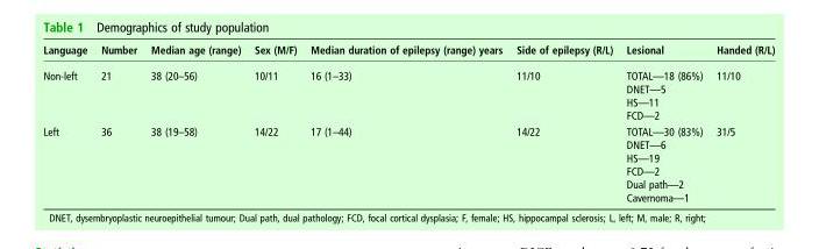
<table><thead><tr><td>Language</td><td>Number</td><td>Median age (range)</td><td>Sex (M/F)</td><td>Median duration of epilepsy (range) years</td><td>Side of epilepsy (R/L)</td><td>Lesional</td><td>Handed (R/L)</td></tr></thead><tbody><tr><td>Non-left</td><td>21</td><td>38 (20–56)</td><td>10/11</td><td>16 (1–33)</td><td>11/10</td><td>TOTAL—18 (86%) DNET—5 HS—11 FCD—2</td><td>11/10</td></tr><tr><td>Left</td><td>36</td><td>38 (19–58)</td><td>14/22</td><td>17 (1–44)</td><td>14/22</td><td>TOTAL—30 (83%) DNET—6 HS—19 FCD—2 Dual path—2 Cavernoma—1</td><td>31/5</td></tr></tbody></table>